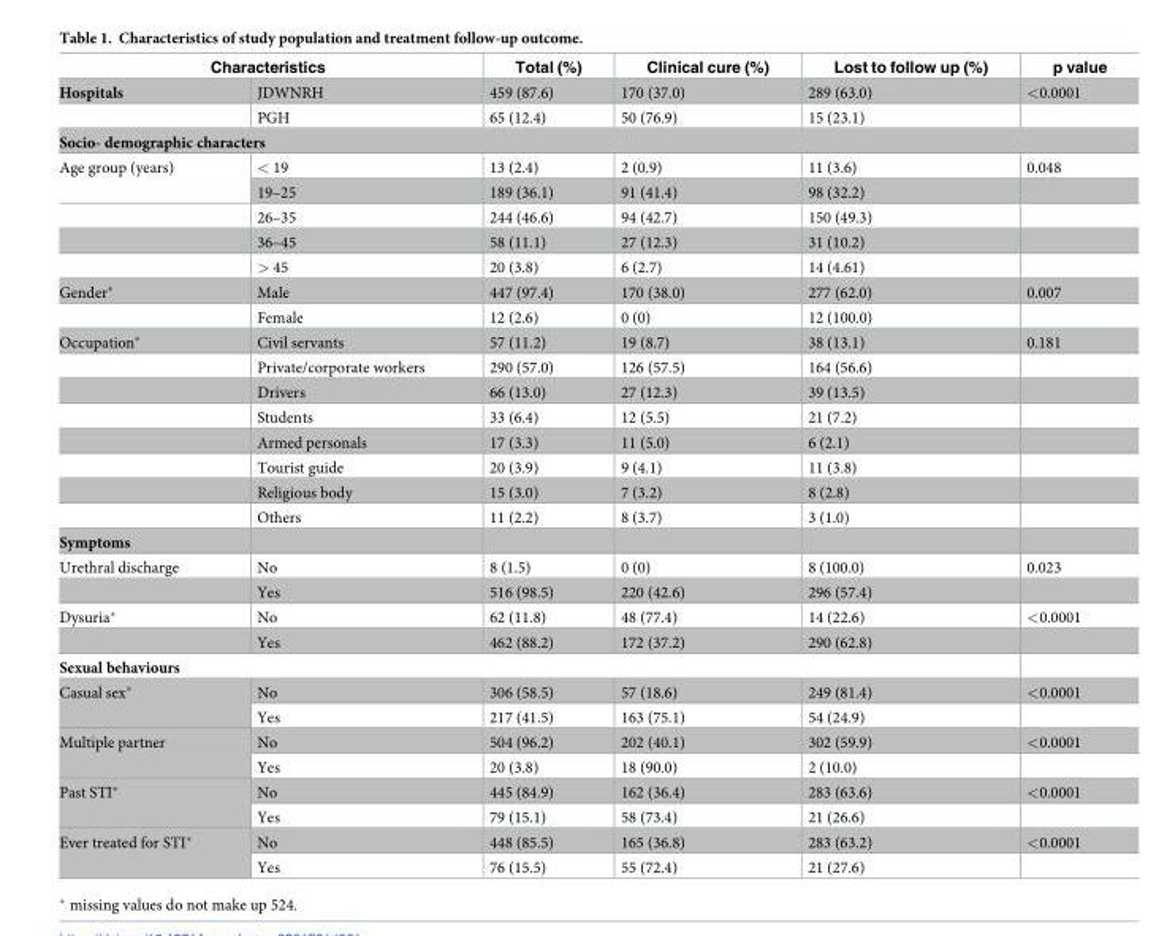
<table><thead><tr><td colspan="2">Characteristics</td><td rowspan="2">Total (%) 459 (87.6)</td><td rowspan="2">Clinical cure (%) 170 (37.0)</td><td rowspan="2">Lost to follow up (%) 289 (63.0)</td><td rowspan="2">p value &lt;0.0001</td></tr><tr><td>Hospitals</td><td>JDWNRH</td></tr></thead><tbody><tr><td></td><td>PGH</td><td>65 (12.4)</td><td>50 (76.9)</td><td>15 (23.1)</td><td></td></tr><tr><td colspan="6">Socio- demographic characters</td></tr><tr><td rowspan="5">Age group (years)</td><td>&lt; 19</td><td>13 (2.4)</td><td>2 (0.9)</td><td>11 (3.6)</td><td>0.048</td></tr><tr><td>19–25</td><td>189 (36.1)</td><td>91 (41.4)</td><td>98 (32.2)</td><td></td></tr><tr><td>26–35</td><td>244 (46.6)</td><td>94 (42.7)</td><td>150 (49.3)</td><td></td></tr><tr><td>36–45</td><td>58 (11.1)</td><td>27 (12.3)</td><td>31 (10.2)</td><td></td></tr><tr><td>&gt; 45</td><td>20 (3.8)</td><td>6 (2.7)</td><td>14 (4.61)</td><td></td></tr><tr><td rowspan="2">Gender*</td><td>Male</td><td>447 (97.4)</td><td>170 (38.0)</td><td>277 (62.0)</td><td>0.007</td></tr><tr><td>Female</td><td>12 (2.6)</td><td>0 (0)</td><td>12 (100.0)</td><td></td></tr><tr><td rowspan="8">Occupation*</td><td>Civil servants</td><td>57 (11.2)</td><td>19 (8.7)</td><td>38 (13.1)</td><td>0.181</td></tr><tr><td>Private/corporate workers</td><td>290 (57.0)</td><td>126 (57.5)</td><td>164 (56.6)</td><td></td></tr><tr><td>Drivers</td><td>66 (13.0)</td><td>27 (12.3)</td><td>39 (13.5)</td><td></td></tr><tr><td>Students</td><td>33 (6.4)</td><td>12 (5.5)</td><td>21 (7.2)</td><td></td></tr><tr><td>Armed personals</td><td>17 (3.3)</td><td>11 (5.0)</td><td>6 (2.1)</td><td></td></tr><tr><td>Tourist guide</td><td>20 (3.9)</td><td>9 (4.1)</td><td>11 (3.8)</td><td></td></tr><tr><td>Religious body</td><td>15 (3.0)</td><td>7 (3.2)</td><td>8 (2.8)</td><td></td></tr><tr><td>Others</td><td>11 (2.2)</td><td>8 (3.7)</td><td>3 (1.0)</td><td></td></tr><tr><td colspan="6">Symptoms</td></tr><tr><td rowspan="2">Urethral discharge</td><td>No</td><td>8 (1.5)</td><td>0 (0)</td><td>8 (100.0)</td><td>0.023</td></tr><tr><td>Yes</td><td>516 (98.5)</td><td>220 (42.6)</td><td>296 (57.4)</td><td></td></tr><tr><td rowspan="2">Dysuria*</td><td>No</td><td>62 (11.8)</td><td>48 (77.4)</td><td>14 (22.6)</td><td>&lt;0.0001</td></tr><tr><td>Yes</td><td>462 (88.2)</td><td>172 (37.2)</td><td>290 (62.8)</td><td></td></tr><tr><td colspan="6">Sexual behaviours</td></tr><tr><td rowspan="2">Casual sex*</td><td>No</td><td>306 (58.5)</td><td>57 (18.6)</td><td>249 (81.4)</td><td>&lt;0.0001</td></tr><tr><td>Yes</td><td>217 (41.5)</td><td>163 (75.1)</td><td>54 (24.9)</td><td></td></tr><tr><td rowspan="2">Multiple partner</td><td>No</td><td>504 (96.2)</td><td>202 (40.1)</td><td>302 (59.9)</td><td>&lt;0.0001</td></tr><tr><td>Yes</td><td>20 (3.8)</td><td>18 (90.0)</td><td>2 (10.0)</td><td></td></tr><tr><td rowspan="2">Past STI*</td><td>No</td><td>445 (84.9)</td><td>162 (36.4)</td><td>283 (63.6)</td><td>&lt;0.0001</td></tr><tr><td>Yes</td><td>79 (15.1)</td><td>58 (73.4)</td><td>21 (26.6)</td><td></td></tr><tr><td rowspan="2">Ever treated for STI*</td><td>No</td><td>448 (85.5)</td><td>165 (36.8)</td><td>283 (63.2)</td><td>&lt;0.0001</td></tr><tr><td>Yes</td><td>76 (15.5)</td><td>55 (72.4)</td><td>21 (27.6)</td><td></td></tr></tbody></table>